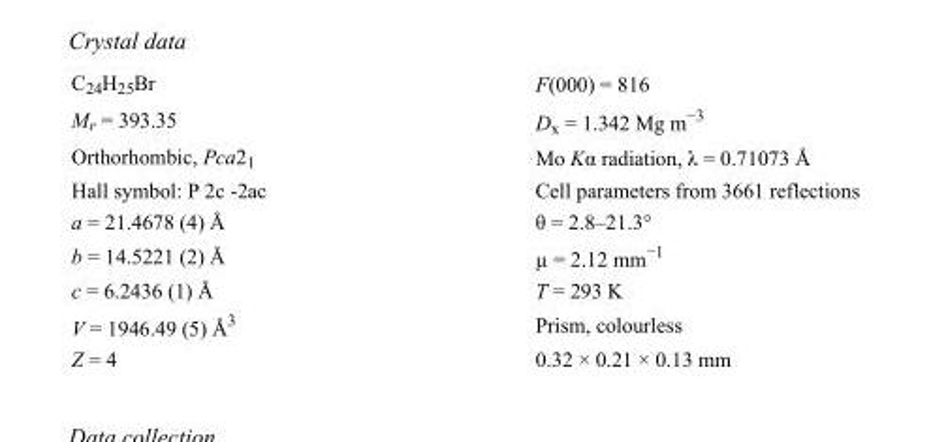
<table><tbody><tr><td>C<sub>24</sub>H<sub>25</sub>Br</td><td>F(000) = 816</td></tr><tr><td>M<sub>r</sub> = 393.35</td><td>D<sub>x</sub> = 1.342 Mg m<sup>−3</sup></td></tr><tr><td>Orthorhombic, Pca2<sub>1</sub></td><td>Mo Kα radiation, λ = 0.71073 Å</td></tr><tr><td>Hall symbol: P 2c -2ac</td><td>Cell parameters from 3661 reflections</td></tr><tr><td>a = 21.4678 (4) Å</td><td>θ = 2.8–21.3°</td></tr><tr><td>b = 14.5221 (2) Å</td><td>µ = 2.12 mm<sup>−1</sup></td></tr><tr><td>c = 6.2436 (1) Å</td><td>T = 293 K</td></tr><tr><td>V = 1946.49 (5) Å<sup>3</sup></td><td>Prism, colourless</td></tr><tr><td>Z = 4</td><td>0.32 × 0.21 × 0.13 mm</td></tr></tbody></table>